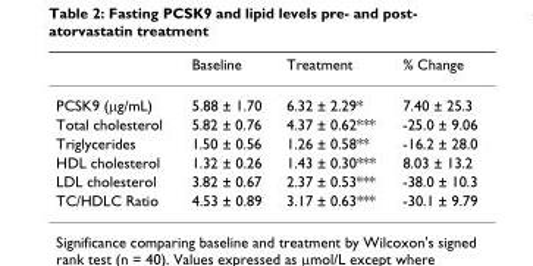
<table><thead><tr><td></td><td>Baseline</td><td>Treatment</td><td>% Change</td></tr></thead><tbody><tr><td>PCSK9 (μg/mL)</td><td>5.88 ± 1.70</td><td>6.32 ± 2.29*</td><td>7.40 ± 25.3</td></tr><tr><td>Total cholesterol</td><td>5.82 ± 0.76</td><td>4.37 ± 0.62***</td><td>-25.0 ± 9.06</td></tr><tr><td>Triglycerides</td><td>1.50 ± 0.56</td><td>1.26 ± 0.58**</td><td>-16.2 ± 28.0</td></tr><tr><td>HDL cholesterol</td><td>1.32 ± 0.26</td><td>1.43 ± 0.30***</td><td>8.03 ± 13.2</td></tr><tr><td>LDL cholesterol</td><td>3.82 ± 0.67</td><td>2.37 ± 0.53***</td><td>-38.0 ± 10.3</td></tr><tr><td>TC/HDLC Ratio</td><td>4.53 ± 0.89</td><td>3.17 ± 0.63***</td><td>-30.1 ± 9.79</td></tr></tbody></table>